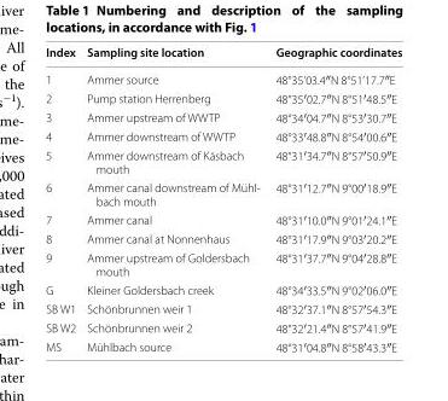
<table><thead><tr><td>Index</td><td>Sampling site location</td><td>Geographic coordinates</td></tr></thead><tbody><tr><td>1</td><td>Ammer source</td><td>48°35’03.4″N 8°51’17.7″E</td></tr><tr><td>2</td><td>Pump station Herrenberg</td><td>48°35′02.7″N 8°51′48.5″E</td></tr><tr><td>3</td><td>Ammer upstream of WWTP</td><td>48°34′04.7″N 8°53′30.7″E</td></tr><tr><td>4</td><td>Ammer downstream of WWTP</td><td>48°33′48.8″N 8°54′00.6″E</td></tr><tr><td>5</td><td>Ammer downstream of Käsbach mouth</td><td>48°31′34.7″N 8°57′50.9″E</td></tr><tr><td>6</td><td>Ammer canal downstream of Mühl- bach mouth</td><td>48°31′12.7″N 9°00′18.9″E</td></tr><tr><td>7</td><td>Ammer canal</td><td>48°31′10.0″N 9°01′24.1″E</td></tr><tr><td>8</td><td>Ammer canal at Nonnenhaus</td><td>48°31′17.9″N 9°03′20.2″E</td></tr><tr><td>9</td><td>Ammer upstream of Goldersbach mouth</td><td>48°31′37.7″N 9°04′28.8″E</td></tr><tr><td>G</td><td>Kleiner Goldersbach creek</td><td>48°34′33.5″N 9°02′06.0″E</td></tr><tr><td>SB W1</td><td>Schönbrunnen weir 1</td><td>48°32′37.1″N 8°57′54.3″E</td></tr><tr><td>SB W2</td><td>Schönbrunnen weir 2</td><td>48°32′21.4″N 8°57′41.9″E</td></tr><tr><td>MS</td><td>Mühlbach source</td><td>48°31′04.8″N 8°58′43.3″E</td></tr></tbody></table>